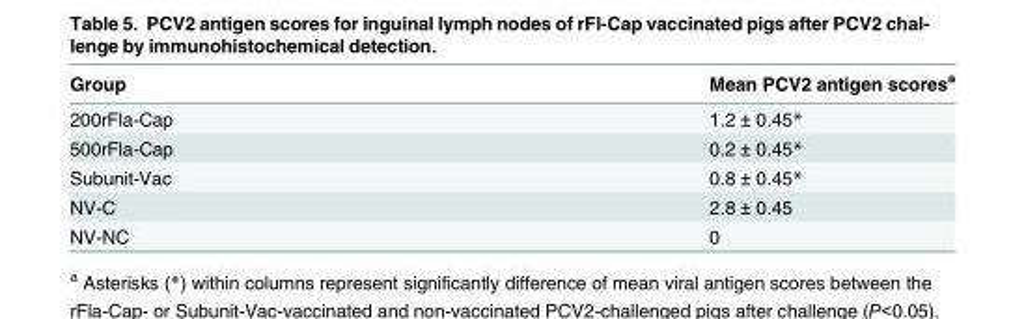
<table><thead><tr><td>Group</td><td>Mean PCV2 antigen scores<sup>a</sup></td></tr></thead><tbody><tr><td>200rFla-Cap</td><td>1.2 ± 0.45*</td></tr><tr><td>500rFla-Cap</td><td>0.2 ± 0.45*</td></tr><tr><td>Subunit-Vac</td><td>0.8 ± 0.45*</td></tr><tr><td>NV-C</td><td>2.8 ± 0.45</td></tr><tr><td>NV-NC</td><td>0</td></tr></tbody></table>